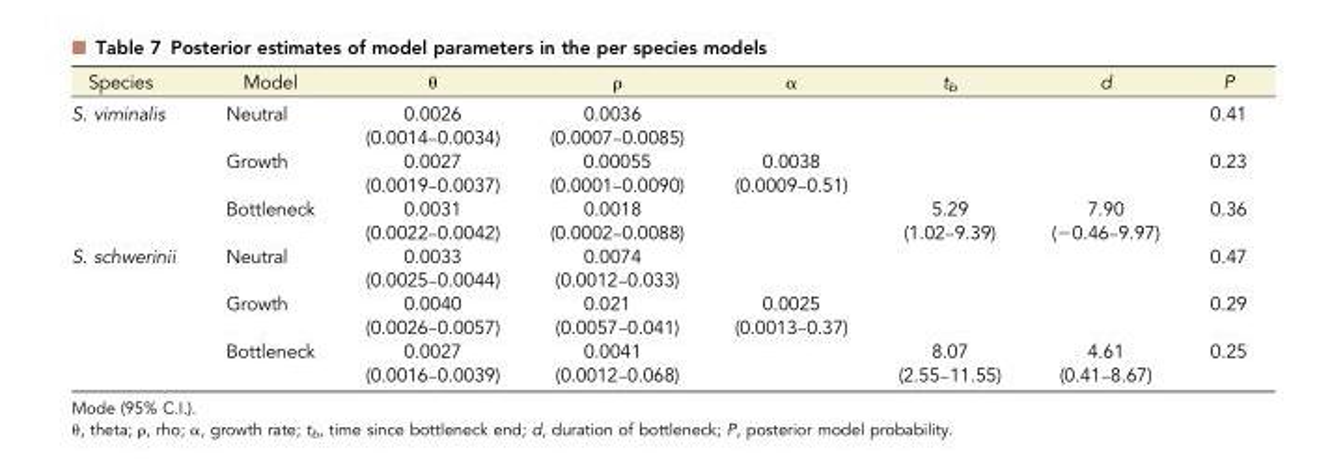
<table><thead><tr><td>Species</td><td>Model</td><td>θ</td><td>ρ</td><td>α</td><td>t<sub>b</sub></td><td>d</td><td>P</td></tr></thead><tbody><tr><td rowspan="3">S. viminalis</td><td>Neutral</td><td>0.0026 (0.0014–0.0034)</td><td>0.0036 (0.0007–0.0085)</td><td></td><td></td><td></td><td>0.41</td></tr><tr><td>Growth</td><td>0.0027 (0.0019–0.0037)</td><td>0.00055 (0.0001–0.0090)</td><td>0.0038 (0.0009–0.51)</td><td></td><td></td><td>0.23</td></tr><tr><td>Bottleneck</td><td>0.0031 (0.0022–0.0042)</td><td>0.0018 (0.0002–0.0088)</td><td></td><td>5.29 (1.02–9.39)</td><td>7.90 (−0.46–9.97)</td><td>0.36</td></tr><tr><td rowspan="3">S. schwerinii</td><td>Neutral</td><td>0.0033 (0.0025–0.0044)</td><td>0.0074 (0.0012–0.033)</td><td></td><td></td><td></td><td>0.47</td></tr><tr><td>Growth</td><td>0.0040 (0.0026–0.0057)</td><td>0.021 (0.0057–0.041)</td><td>0.0025 (0.0013–0.37)</td><td></td><td></td><td>0.29</td></tr><tr><td>Bottleneck</td><td>0.0027 (0.0016–0.0039)</td><td>0.0041 (0.0012–0.068)</td><td></td><td>8.07 (2.55–11.55)</td><td>4.61 (0.41–8.67)</td><td>0.25</td></tr></tbody></table>